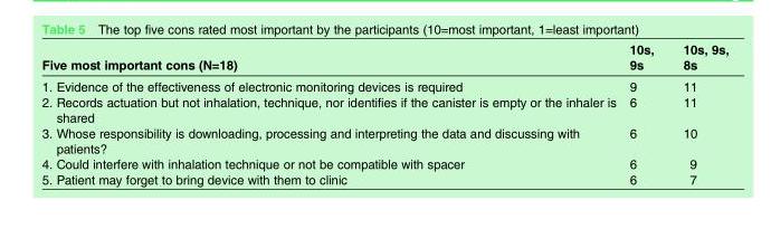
<table><thead><tr><td>Five most important cons (N=18)</td><td>10s, 9s</td><td>10s, 9s, 8s</td></tr></thead><tbody><tr><td>1. Evidence of the effectiveness of electronic monitoring devices is required</td><td>9</td><td>11</td></tr><tr><td>2. Records actuation but not inhalation, technique, nor identifies if the canister is empty or the inhaler is shared</td><td>6</td><td>11</td></tr><tr><td>3. Whose responsibility is downloading, processing and interpreting the data and discussing with patients?</td><td>6</td><td>10</td></tr><tr><td>4. Could interfere with inhalation technique or not be compatible with spacer</td><td>6</td><td>9</td></tr><tr><td>5. Patient may forget to bring device with them to clinic</td><td>6</td><td>7</td></tr></tbody></table>